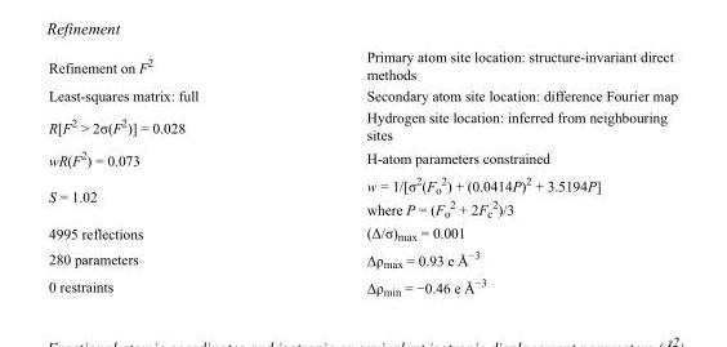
<table><tbody><tr><td>Refinement on F<sup>2</sup></td><td>Primary atom site location: structure-invariant direct methods</td></tr><tr><td>Least-squares matrix: full</td><td>Secondary atom site location: difference Fourier map</td></tr><tr><td>R[F<sup>2</sup> &gt; 2σ(F<sup>2</sup>)] = 0.028</td><td>Hydrogen site location: inferred from neighbouring sites</td></tr><tr><td>wR(F<sup>2</sup>) = 0.073</td><td>H-atom parameters constrained</td></tr><tr><td>S = 1.02</td><td>w = 1/[σ<sup>2</sup>(F<sub>o</sub> <sup>2</sup>) + (0.0414P)<sup>2</sup> + 3.5194P] where P = (F<sub>o</sub> <sup>2</sup> + 2F<sub>c</sub> <sup>2</sup>)/3</td></tr><tr><td>4995 reflections</td><td>(Δ/σ)<sub>max</sub> = 0.001</td></tr><tr><td>280 parameters</td><td>Δρ<sub>max</sub> = 0.93 e Å<sup>−3</sup></td></tr><tr><td>0 restraints</td><td>Δρ<sub>min</sub> = −0.46 e Å<sup>−3</sup></td></tr></tbody></table>